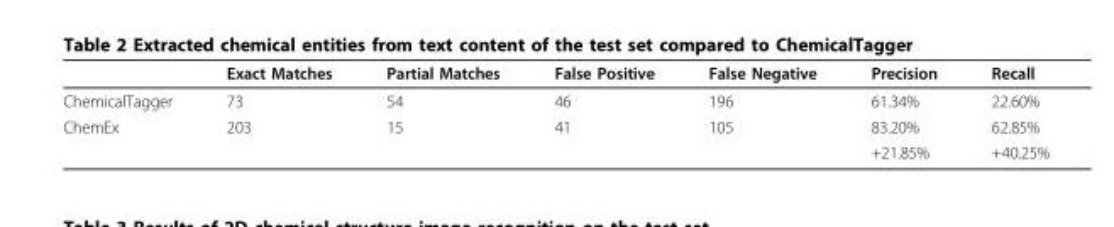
<table><thead><tr><td></td><td>Exact Matches</td><td>Partial Matches</td><td>False Positive</td><td>False Negative</td><td>Precision</td><td>Recall</td></tr></thead><tbody><tr><td>ChemicalTagger</td><td>73</td><td>54</td><td>46</td><td>196</td><td>61.34%</td><td>22.60%</td></tr><tr><td rowspan="2">ChemEx</td><td>203</td><td>15</td><td>41</td><td>105</td><td>83.20%</td><td>62.85%</td></tr><tr><td></td><td></td><td></td><td></td><td>+21.85%</td><td>+40.25%</td></tr></tbody></table>